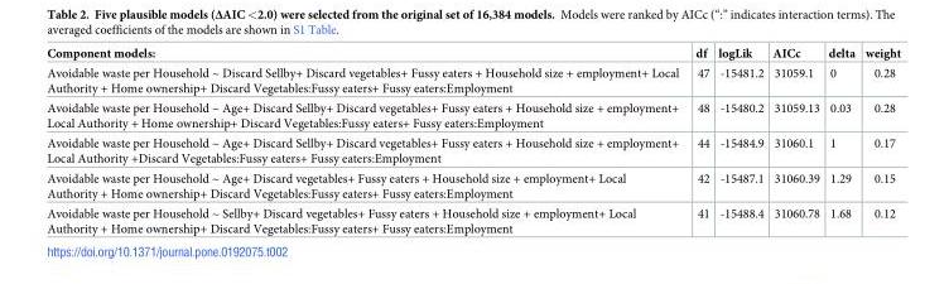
<table><thead><tr><td>Component models:</td><td>df</td><td>logLik</td><td>AICc</td><td>delta</td><td>weight</td></tr></thead><tbody><tr><td>Avoidable waste per Household ~ Discard Sellby+ Discard vegetables+ Fussy eaters + Household size + employment+ Local Authority + Home ownership+ Discard Vegetables:Fussy eaters+ Fussy eaters:Employment</td><td>47</td><td>-15481.2</td><td>31059.1</td><td>0</td><td>0.28</td></tr><tr><td>Avoidable waste per Household ~ Age+ Discard Sellby+ Discard vegetables+ Fussy eaters + Household size + employment+ Local Authority + Home ownership+ Discard Vegetables:Fussy eaters+ Fussy eaters:Employment</td><td>48</td><td>-15480.2</td><td>31059.13</td><td>0.03</td><td>0.28</td></tr><tr><td>Avoidable waste per Household ~ Age+ Discard Sellby+ Discard vegetables+ Fussy eaters + Household size + employment+ Local Authority +Discard Vegetables:Fussy eaters+ Fussy eaters:Employment</td><td>44</td><td>-15484.9</td><td>31060.1</td><td>1</td><td>0.17</td></tr><tr><td>Avoidable waste per Household ~ Age+ Discard vegetables+ Fussy eaters + Household size + employment+ Local Authority + Home ownership+ Discard Vegetables:Fussy eaters+ Fussy eaters:Employment</td><td>42</td><td>-15487.1</td><td>31060.39</td><td>1.29</td><td>0.15</td></tr><tr><td>Avoidable waste per Household ~ Sellby+ Discard vegetables+ Fussy eaters + Household size + employment+ Local Authority + Home ownership+ Discard Vegetables:Fussy eaters+ Fussy eaters:Employment</td><td>41</td><td>-15488.4</td><td>31060.78</td><td>1.68</td><td>0.12</td></tr></tbody></table>